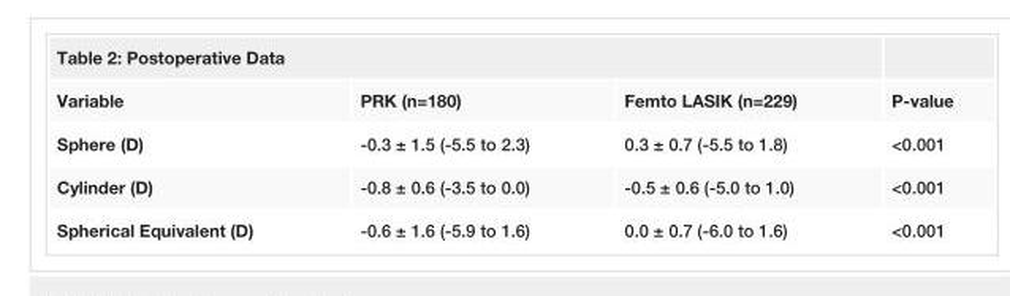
<table><tbody><tr><td colspan="4">Table 2: Postoperative Data</td></tr><tr><td>Variable</td><td>PRK (n=180)</td><td>Femto LASIK (n=229)</td><td>P-value</td></tr><tr><td>Sphere (D)</td><td>-0.3 ± 1.5 (-5.5 to 2.3)</td><td>0.3 ± 0.7 (-5.5 to 1.8)</td><td>&lt;0.001</td></tr><tr><td>Cylinder (D)</td><td>-0.8 ± 0.6 (-3.5 to 0.0)</td><td>-0.5 ± 0.6 (-5.0 to 1.0)</td><td>&lt;0.001</td></tr><tr><td>Spherical Equivalent (D)</td><td>-0.6 ± 1.6 (-5.9 to 1.6)</td><td>0.0 ± 0.7 (-6.0 to 1.6)</td><td>&lt;0.001</td></tr></tbody></table>